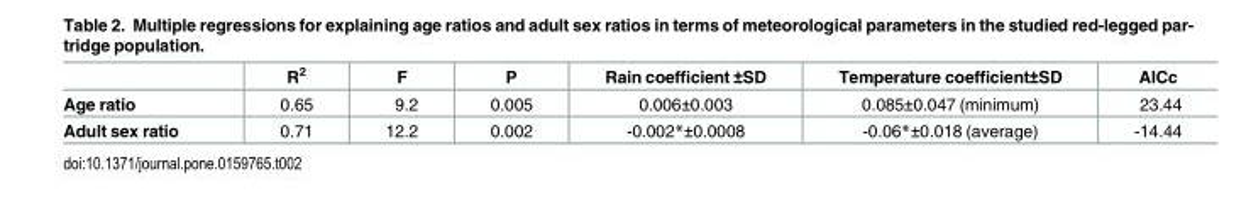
<table><thead><tr><td></td><td>R<sup>2</sup></td><td>F</td><td>P</td><td>Rain coefficient ±SD</td><td>Temperature coefficient±SD</td><td>AICc</td></tr></thead><tbody><tr><td>Age ratio</td><td>0.65</td><td>9.2</td><td>0.005</td><td>0.006±0.003</td><td>0.085±0.047 (minimum)</td><td>23.44</td></tr><tr><td>Adult sex ratio</td><td>0.71</td><td>12.2</td><td>0.002</td><td>-0.002*±0.0008</td><td>-0.06*±0.018 (average)</td><td>-14.44</td></tr></tbody></table>